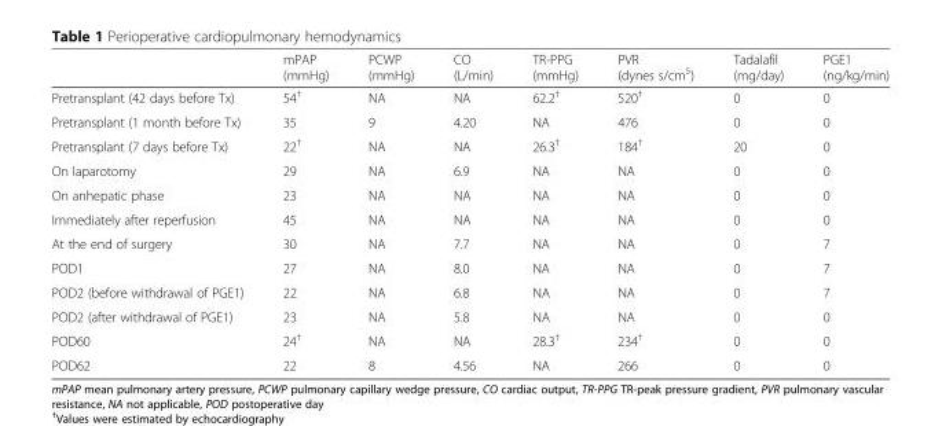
<table><thead><tr><td></td><td>mPAP (mmHg)</td><td>PCWP (mmHg)</td><td>CO (L/min)</td><td>TR-PPG (mmHg)</td><td>PVR (dynes s/cm<sup>5</sup>)</td><td>Tadalafil (mg/day)</td><td>PGE1 (ng/kg/min)</td></tr></thead><tbody><tr><td>Pretransplant (42 days before Tx)</td><td>54<sup>†</sup></td><td>NA</td><td>NA</td><td>62.2<sup>†</sup></td><td>520<sup>†</sup></td><td>0</td><td>0</td></tr><tr><td>Pretransplant (1 month before Tx)</td><td>35</td><td>9</td><td>4.20</td><td>NA</td><td>476</td><td>0</td><td>0</td></tr><tr><td>Pretransplant (7 days before Tx)</td><td>22<sup>†</sup></td><td>NA</td><td>NA</td><td>26.3<sup>†</sup></td><td>184<sup>†</sup></td><td>20</td><td>0</td></tr><tr><td>On laparotomy</td><td>29</td><td>NA</td><td>6.9</td><td>NA</td><td>NA</td><td>0</td><td>0</td></tr><tr><td>On anhepatic phase</td><td>23</td><td>NA</td><td>NA</td><td>NA</td><td>NA</td><td>0</td><td>0</td></tr><tr><td>Immediately after reperfusion</td><td>45</td><td>NA</td><td>NA</td><td>NA</td><td>NA</td><td>0</td><td>0</td></tr><tr><td>At the end of surgery</td><td>30</td><td>NA</td><td>7.7</td><td>NA</td><td>NA</td><td>0</td><td>7</td></tr><tr><td>POD1</td><td>27</td><td>NA</td><td>8.0</td><td>NA</td><td>NA</td><td>0</td><td>7</td></tr><tr><td>POD2 (before withdrawal of PGE1)</td><td>22</td><td>NA</td><td>6.8</td><td>NA</td><td>NA</td><td>0</td><td>7</td></tr><tr><td>POD2 (after withdrawal of PGE1)</td><td>23</td><td>NA</td><td>5.8</td><td>NA</td><td>NA</td><td>0</td><td>0</td></tr><tr><td>POD60</td><td>24<sup>†</sup></td><td>NA</td><td>NA</td><td>28.3<sup>†</sup></td><td>234<sup>†</sup></td><td>0</td><td>0</td></tr><tr><td>POD62</td><td>22</td><td>8</td><td>4.56</td><td>NA</td><td>266</td><td>0</td><td>0</td></tr></tbody></table>